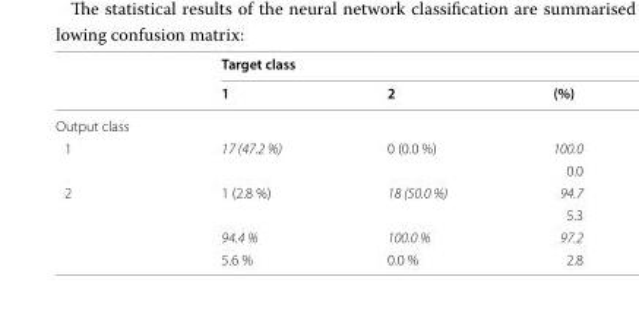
<table><thead><tr><td rowspan="2"></td><td colspan="3">Target class</td></tr><tr><td>1</td><td>2</td><td>(%)</td></tr></thead><tbody><tr><td colspan="4">Output class</td></tr><tr><td rowspan="2">1</td><td rowspan="2">17 (47.2 %)</td><td rowspan="2">0 (0.0 %)</td><td>100.0</td></tr><tr><td>0.0</td></tr><tr><td rowspan="4">2</td><td rowspan="2">1 (2.8 %)</td><td rowspan="2">18 (50.0 %)</td><td>94.7</td></tr><tr><td>5.3</td></tr><tr><td>94.4 %</td><td>100.0 %</td><td>97.2</td></tr><tr><td>5.6 %</td><td>0.0 %</td><td>2.8</td></tr></tbody></table>